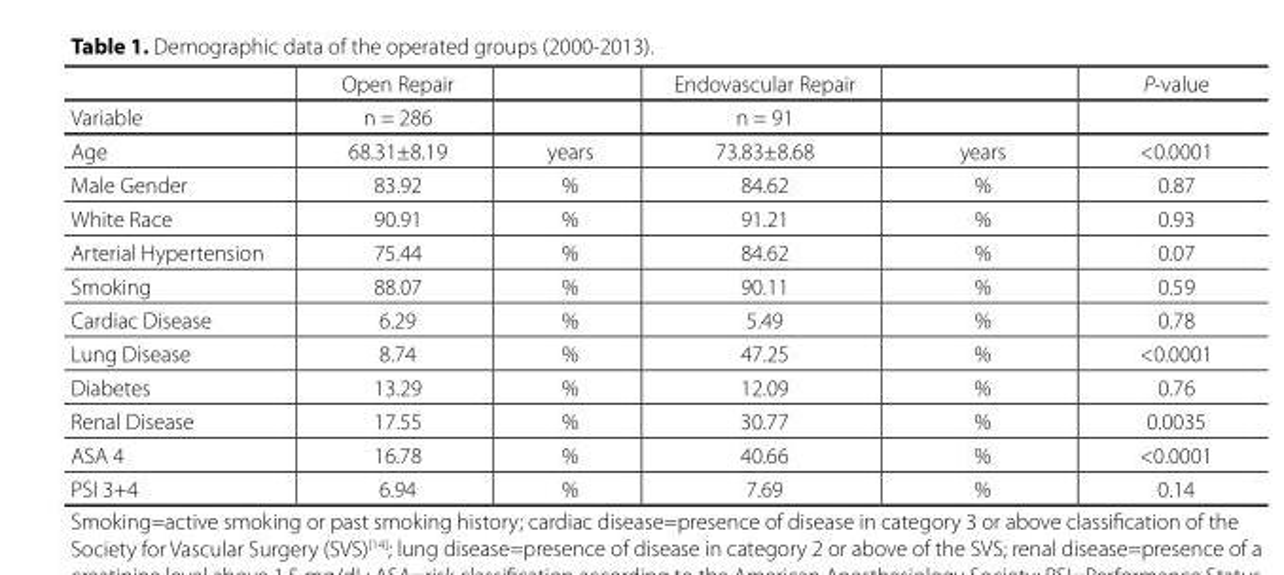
<table><thead><tr><td rowspan="2">Variable</td><td rowspan="2">Open Repair n = 286</td><td rowspan="2"></td><td rowspan="2">Endovascular Repair n = 91</td><td rowspan="2"></td><td rowspan="2">P-value</td></tr><tr></tr></thead><tbody><tr><td>Age</td><td>68.31±8.19</td><td>years</td><td>73.83±8.68</td><td>years</td><td>&lt;0.0001</td></tr><tr><td>Male Gender</td><td>83.92</td><td>%</td><td>84.62</td><td>%</td><td>0.87</td></tr><tr><td>White Race</td><td>90.91</td><td>%</td><td>91.21</td><td>%</td><td>0.93</td></tr><tr><td>Arterial Hypertension</td><td>75.44</td><td>%</td><td>84.62</td><td>%</td><td>0.07</td></tr><tr><td>Smoking</td><td>88.07</td><td>%</td><td>90.11</td><td>%</td><td>0.59</td></tr><tr><td>Cardiac Disease</td><td>6.29</td><td>%</td><td>5.49</td><td>%</td><td>0.78</td></tr><tr><td>Lung Disease</td><td>8.74</td><td>%</td><td>47.25</td><td>%</td><td>&lt;0.0001</td></tr><tr><td>Diabetes</td><td>13.29</td><td>%</td><td>12.09</td><td>%</td><td>0.76</td></tr><tr><td>Renal Disease</td><td>17.55</td><td>%</td><td>30.77</td><td>%</td><td>0.0035</td></tr><tr><td>ASA 4</td><td>16.78</td><td>%</td><td>40.66</td><td>%</td><td>&lt;0.0001</td></tr><tr><td>PSI 3+4</td><td>6.94</td><td>%</td><td>7.69</td><td>%</td><td>0.14</td></tr></tbody></table>